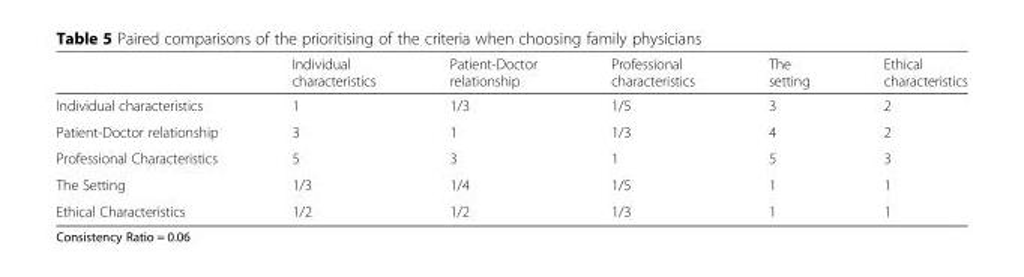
<table><thead><tr><td></td><td>Individual characteristics</td><td>Patient-Doctor relationship</td><td>Professional characteristics</td><td>The setting</td><td>Ethical characteristics</td></tr></thead><tbody><tr><td>Individual characteristics</td><td>1</td><td>1/3</td><td>1/5</td><td>3</td><td>2</td></tr><tr><td>Patient-Doctor relationship</td><td>3</td><td>1</td><td>1/3</td><td>4</td><td>2</td></tr><tr><td>Professional Characteristics</td><td>5</td><td>3</td><td>1</td><td>5</td><td>3</td></tr><tr><td>The Setting</td><td>1/3</td><td>1/4</td><td>1/5</td><td>1</td><td>1</td></tr><tr><td>Ethical Characteristics</td><td>1/2</td><td>1/2</td><td>1/3</td><td>1</td><td>1</td></tr></tbody></table>